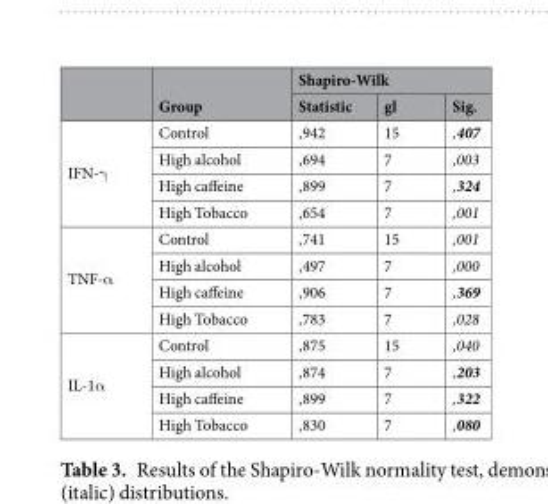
<table><thead><tr><td rowspan="2"></td><td rowspan="2">Group</td><td colspan="3">Shapiro-Wilk</td></tr><tr><td>Statistic</td><td>gl</td><td>Sig.</td></tr></thead><tbody><tr><td rowspan="4">IFN-γ</td><td>Control</td><td>,942</td><td>15</td><td>,407</td></tr><tr><td>High alcohol</td><td>,694</td><td>7</td><td>,003</td></tr><tr><td>High caffeine</td><td>,899</td><td>7</td><td>,324</td></tr><tr><td>High Tobacco</td><td>,654</td><td>7</td><td>,001</td></tr><tr><td rowspan="4">TNF-α</td><td>Control</td><td>,741</td><td>15</td><td>,001</td></tr><tr><td>High alcohol</td><td>,497</td><td>7</td><td>,000</td></tr><tr><td>High caffeine</td><td>,906</td><td>7</td><td>,369</td></tr><tr><td>High Tobacco</td><td>,783</td><td>7</td><td>,028</td></tr><tr><td rowspan="4">IL-1α</td><td>Control</td><td>,875</td><td>15</td><td>,040</td></tr><tr><td>High alcohol</td><td>,874</td><td>7</td><td>,203</td></tr><tr><td>High caffeine</td><td>,899</td><td>7</td><td>,322</td></tr><tr><td>High Tobacco</td><td>,830</td><td>7</td><td>,080</td></tr></tbody></table>